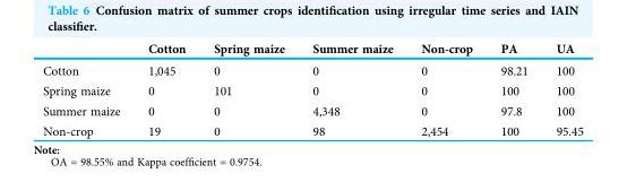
<table><thead><tr><td></td><td>Cotton</td><td>Spring maize</td><td>Summer maize</td><td>Non-crop</td><td>PA</td><td>UA</td></tr></thead><tbody><tr><td>Cotton</td><td>1,045</td><td>0</td><td>0</td><td>0</td><td>98.21</td><td>100</td></tr><tr><td>Spring maize</td><td>0</td><td>101</td><td>0</td><td>0</td><td>100</td><td>100</td></tr><tr><td>Summer maize</td><td>0</td><td>0</td><td>4,348</td><td>0</td><td>97.8</td><td>100</td></tr><tr><td>Non-crop</td><td>19</td><td>0</td><td>98</td><td>2,454</td><td>100</td><td>95.45</td></tr></tbody></table>